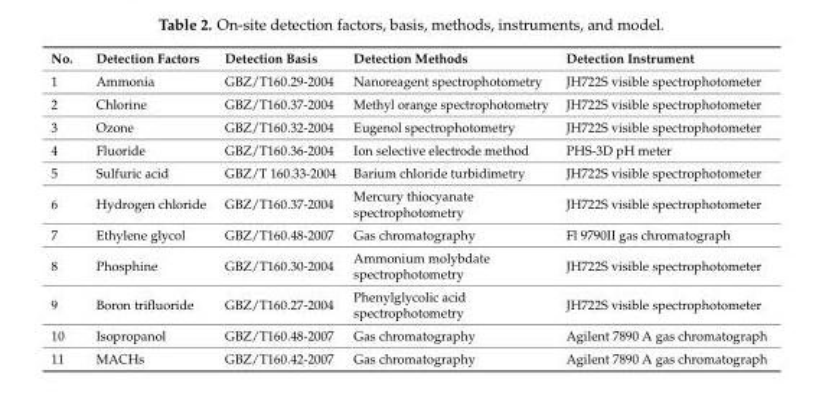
<table><thead><tr><td>No.</td><td>Detection Factors</td><td>Detection Basis</td><td>Detection Methods</td><td>Detection Instrument</td></tr></thead><tbody><tr><td>1</td><td>Ammonia</td><td>GBZ/T160.29-2004</td><td>Nanoreagent spectrophotometry</td><td>JH722S visible spectrophotometer</td></tr><tr><td>2</td><td>Chlorine</td><td>GBZ/T160.37-2004</td><td>Methyl orange spectrophotometry</td><td>JH722S visible spectrophotometer</td></tr><tr><td>3</td><td>Ozone</td><td>GBZ/T160.32-2004</td><td>Eugenol spectrophotometry</td><td>JH722S visible spectrophotometer</td></tr><tr><td>4</td><td>Fluoride</td><td>GBZ/T160.36-2004</td><td>Ion selective electrode method</td><td>PHS-3D pH meter</td></tr><tr><td>5</td><td>Sulfuric acid</td><td>GBZ/T 160.33-2004</td><td>Barium chloride turbidimetry</td><td>JH722S visible spectrophotometer</td></tr><tr><td>6</td><td>Hydrogen chloride</td><td>GBZ/T160.37-2004</td><td>Mercury thiocyanate spectrophotometry</td><td>JH722S visible spectrophotometer</td></tr><tr><td>7</td><td>Ethylene glycol</td><td>GBZ/T160.48-2007</td><td>Gas chromatography</td><td>Fl 9790II gas chromatograph</td></tr><tr><td>8</td><td>Phosphine</td><td>GBZ/T160.30-2004</td><td>Ammonium molybdate spectrophotometry</td><td>JH722S visible spectrophotometer</td></tr><tr><td>9</td><td>Boron trifluoride</td><td>GBZ/T160.27-2004</td><td>Phenylglycolic acid spectrophotometry</td><td>JH722S visible spectrophotometer</td></tr><tr><td>10</td><td>Isopropanol</td><td>GBZ/T160.48-2007</td><td>Gas chromatography</td><td>Agilent 7890 A gas chromatograph</td></tr><tr><td>11</td><td>MACHs</td><td>GBZ/T160.42-2007</td><td>Gas chromatography</td><td>Agilent 7890 A gas chromatograph</td></tr></tbody></table>